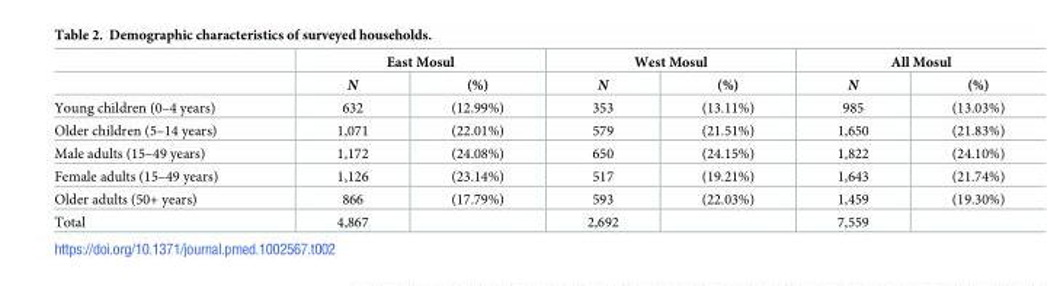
<table><thead><tr><td rowspan="2"></td><td colspan="2">East Mosul</td><td colspan="2">West Mosul</td><td colspan="2">All Mosul</td></tr><tr><td>N</td><td>(%)</td><td>N</td><td>(%)</td><td>N</td><td>(%)</td></tr></thead><tbody><tr><td>Young children (0–4 years)</td><td>632</td><td>(12.99%)</td><td>353</td><td>(13.11%)</td><td>985</td><td>(13.03%)</td></tr><tr><td>Older children (5–14 years)</td><td>1,071</td><td>(22.01%)</td><td>579</td><td>(21.51%)</td><td>1,650</td><td>(21.83%)</td></tr><tr><td>Male adults (15–49 years)</td><td>1,172</td><td>(24.08%)</td><td>650</td><td>(24.15%)</td><td>1,822</td><td>(24.10%)</td></tr><tr><td>Female adults (15–49 years)</td><td>1,126</td><td>(23.14%)</td><td>517</td><td>(19.21%)</td><td>1,643</td><td>(21.74%)</td></tr><tr><td>Older adults (50+ years)</td><td>866</td><td>(17.79%)</td><td>593</td><td>(22.03%)</td><td>1,459</td><td>(19.30%)</td></tr><tr><td>Total</td><td>4,867</td><td></td><td>2,692</td><td></td><td>7,559</td><td></td></tr></tbody></table>